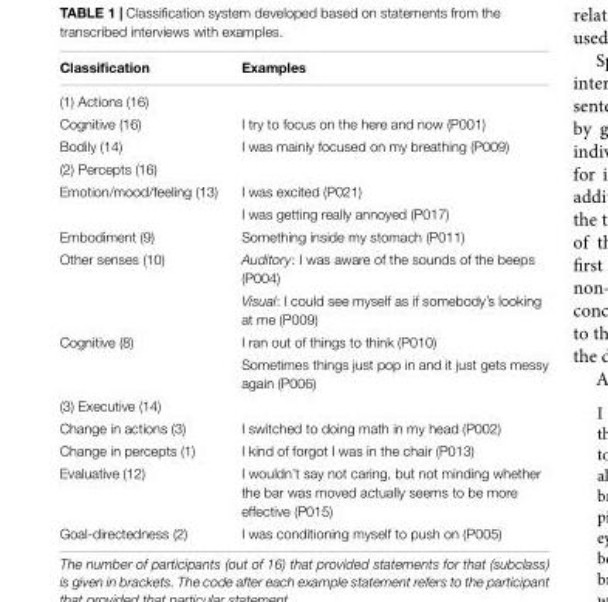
<table><thead><tr><td>Classification</td><td>Examples</td></tr></thead><tbody><tr><td colspan="2">(1) Actions (16)</td></tr><tr><td>Cognitive (16)</td><td>I try to focus on the here and now (P001)</td></tr><tr><td>Bodily (14)</td><td>I was mainly focused on my breathing (P009)</td></tr><tr><td colspan="2">(2) Percepts (16)</td></tr><tr><td rowspan="2">Emotion/mood/feeling (13)</td><td>I was excited (P021)</td></tr><tr><td>I was getting really annoyed (P017)</td></tr><tr><td>Embodiment (9)</td><td>Something inside my stomach (P011)</td></tr><tr><td rowspan="2">Other senses (10)</td><td>Auditory: I was aware of the sounds of the beeps (P004)</td></tr><tr><td>Visual: I could see myself as if somebody’s looking at me (P009)</td></tr><tr><td rowspan="2">Cognitive (8)</td><td>I ran out of things to think (P010)</td></tr><tr><td>Sometimes things just pop in and it just gets messy again (P006)</td></tr><tr><td colspan="2">(3) Executive (14)</td></tr><tr><td>Change in actions (3)</td><td>I switched to doing math in my head (P002)</td></tr><tr><td>Change in percepts (1)</td><td>I kind of forgot I was in the chair (P013)</td></tr><tr><td>Evaluative (12)</td><td>I wouldn’t say not caring, but not minding whether the bar was moved actually seems to be more effective (P015)</td></tr><tr><td>Goal-directedness (2)</td><td>I was conditioning myself to push on (P005)</td></tr></tbody></table>